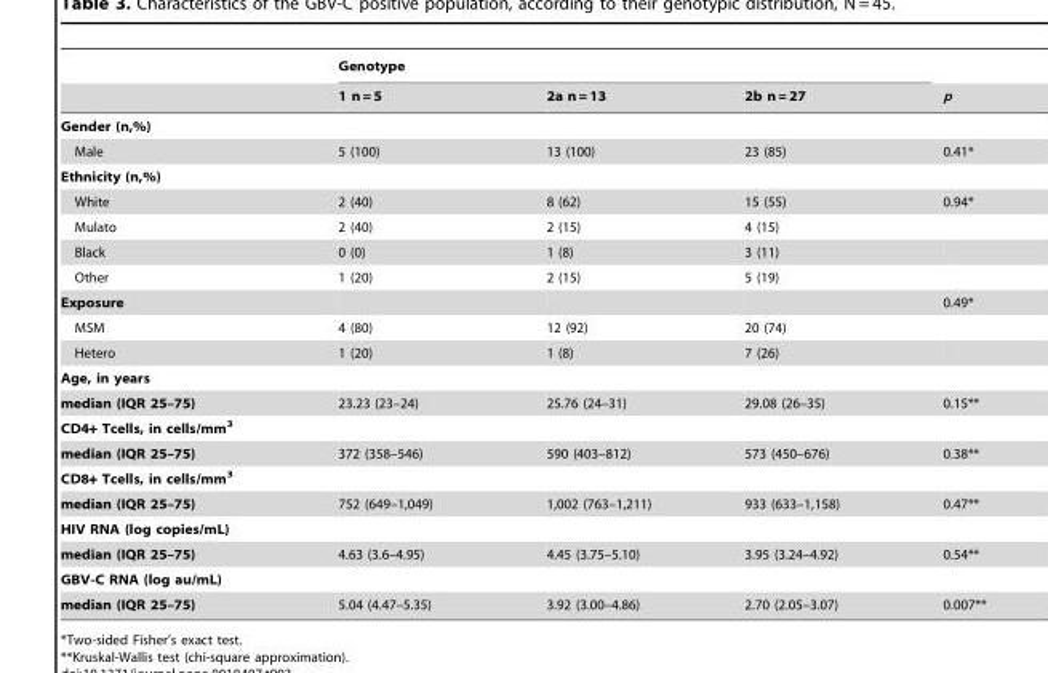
<table><thead><tr><td rowspan="2"></td><td colspan="3">Genotype</td><td rowspan="2">p</td></tr><tr><td>1 n = 5</td><td>2a n = 13</td><td>2b n = 27</td></tr></thead><tbody><tr><td colspan="5">Gender (n,%)</td></tr><tr><td>Male</td><td>5 (100)</td><td>13 (100)</td><td>23 (85)</td><td>0.41*</td></tr><tr><td colspan="5">Ethnicity (n,%)</td></tr><tr><td>White</td><td>2 (40)</td><td>8 (62)</td><td>15 (55)</td><td>0.94*</td></tr><tr><td>Mulato</td><td>2 (40)</td><td>2 (15)</td><td>4 (15)</td><td></td></tr><tr><td>Black</td><td>0 (0)</td><td>1 (8)</td><td>3 (11)</td><td></td></tr><tr><td>Other</td><td>1 (20)</td><td>2 (15)</td><td>5 (19)</td><td></td></tr><tr><td>Exposure</td><td></td><td></td><td></td><td>0.49*</td></tr><tr><td>MSM</td><td>4 (80)</td><td>12 (92)</td><td>20 (74)</td><td></td></tr><tr><td>Hetero</td><td>1 (20)</td><td>1 (8)</td><td>7 (26)</td><td></td></tr><tr><td colspan="5">Age, in years</td></tr><tr><td>median (IQR 25–75)</td><td>23.23 (23–24)</td><td>25.76 (24–31)</td><td>29.08 (26–35)</td><td>0.15**</td></tr><tr><td colspan="5">CD4+ Tcells, in cells/mm<sup>3</sup></td></tr><tr><td>median (IQR 25–75)</td><td>372 (358–546)</td><td>590 (403–812)</td><td>573 (450–676)</td><td>0.38**</td></tr><tr><td colspan="5">CD8+ Tcells, in cells/mm<sup>3</sup></td></tr><tr><td>median (IQR 25–75)</td><td>752 (649–1,049)</td><td>1,002 (763–1,211)</td><td>933 (633–1,158)</td><td>0.47**</td></tr><tr><td colspan="5">HIV RNA (log copies/mL)</td></tr><tr><td>median (IQR 25–75)</td><td>4.63 (3.6–4.95)</td><td>4.45 (3.75–5.10)</td><td>3.95 (3.24–4.92)</td><td>0.54**</td></tr><tr><td colspan="5">GBV-C RNA (log au/mL)</td></tr><tr><td>median (IQR 25–75)</td><td>5.04 (4.47–5.35)</td><td>3.92 (3.00–4.86)</td><td>2.70 (2.05–3.07)</td><td>0.007**</td></tr></tbody></table>